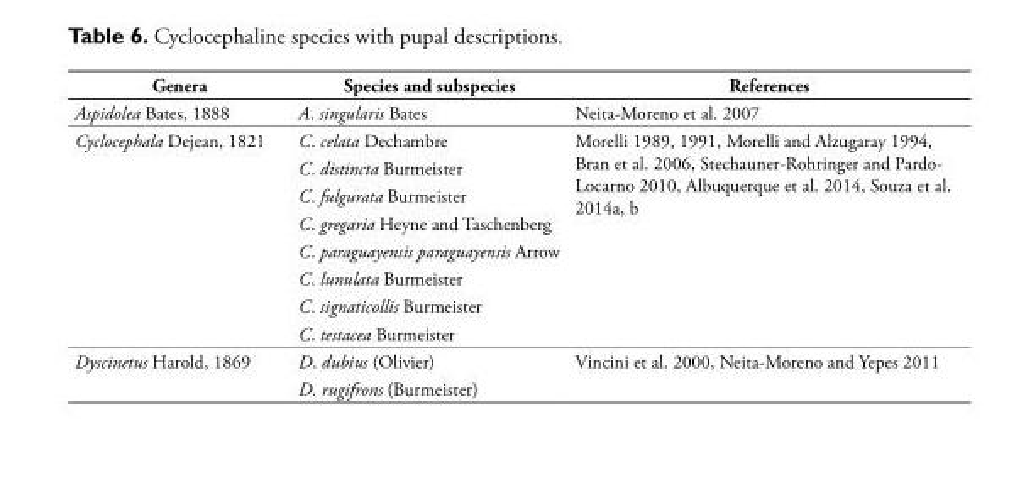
<table><tbody><tr><td>Genera</td><td>Species and subspecies</td><td>References</td></tr><tr><td>Aspidolea Bates, 1888</td><td>A. singularis Bates</td><td>Neita-Moreno et al. 2007</td></tr><tr><td rowspan="8">Cyclocephala Dejean, 1821</td><td>C. celata Dechambre</td><td rowspan="8">Morelli 1989, 1991, Morelli and Alzugaray 1994, Bran et al. 2006, Stechauner-Rohringer and Pardo- Locarno 2010, Albuquerque et al. 2014, Souza et al. 2014a, b</td></tr><tr><td>C. distincta Burmeister</td></tr><tr><td>C. fulgurata Burmeister</td></tr><tr><td>C. gregaria Heyne and Taschenberg</td></tr><tr><td>C. paraguayensis paraguayensis Arrow</td></tr><tr><td>C. lunulata Burmeister</td></tr><tr><td>C. signaticollis Burmeister</td></tr><tr><td>C. testacea Burmeister</td></tr><tr><td rowspan="2">Dyscinetus Harold, 1869</td><td>D. dubius (Olivier)</td><td rowspan="2">Vincini et al. 2000, Neita-Moreno and Yepes 2011</td></tr><tr><td>D. rugifrons (Burmeister)</td></tr></tbody></table>